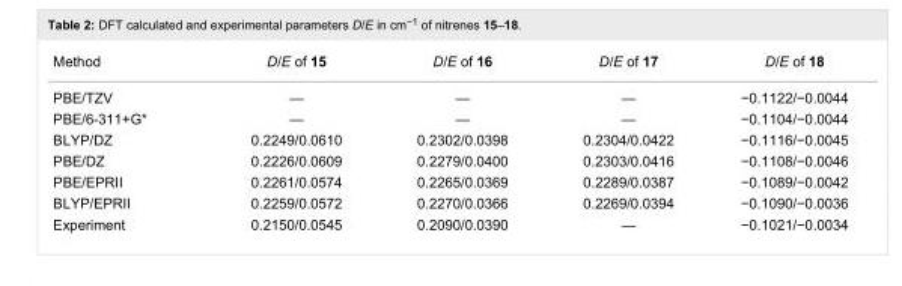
<table><tbody><tr><td>Method</td><td>D/E of 15</td><td>D/E of 16</td><td>D/E of 17</td><td>D/E of 18</td></tr><tr><td>PBE/TZV</td><td>—</td><td>—</td><td>—</td><td>−0.1122/−0.0044</td></tr><tr><td>PBE/6-311+G*</td><td>—</td><td>—</td><td>—</td><td>−0.1104/−0.0044</td></tr><tr><td>BLYP/DZ</td><td>0.2249/0.0610</td><td>0.2302/0.0398</td><td>0.2304/0.0422</td><td>−0.1116/−0.0045</td></tr><tr><td>PBE/DZ</td><td>0.2226/0.0609</td><td>0.2279/0.0400</td><td>0.2303/0.0416</td><td>−0.1108/−0.0046</td></tr><tr><td>PBE/EPRII</td><td>0.2261/0.0574</td><td>0.2265/0.0369</td><td>0.2289/0.0387</td><td>−0.1089/−0.0042</td></tr><tr><td>BLYP/EPRII</td><td>0.2259/0.0572</td><td>0.2270/0.0366</td><td>0.2269/0.0394</td><td>−0.1090/−0.0036</td></tr><tr><td>Experiment</td><td>0.2150/0.0545</td><td>0.2090/0.0390</td><td>—</td><td>−0.1021/−0.0034</td></tr></tbody></table>